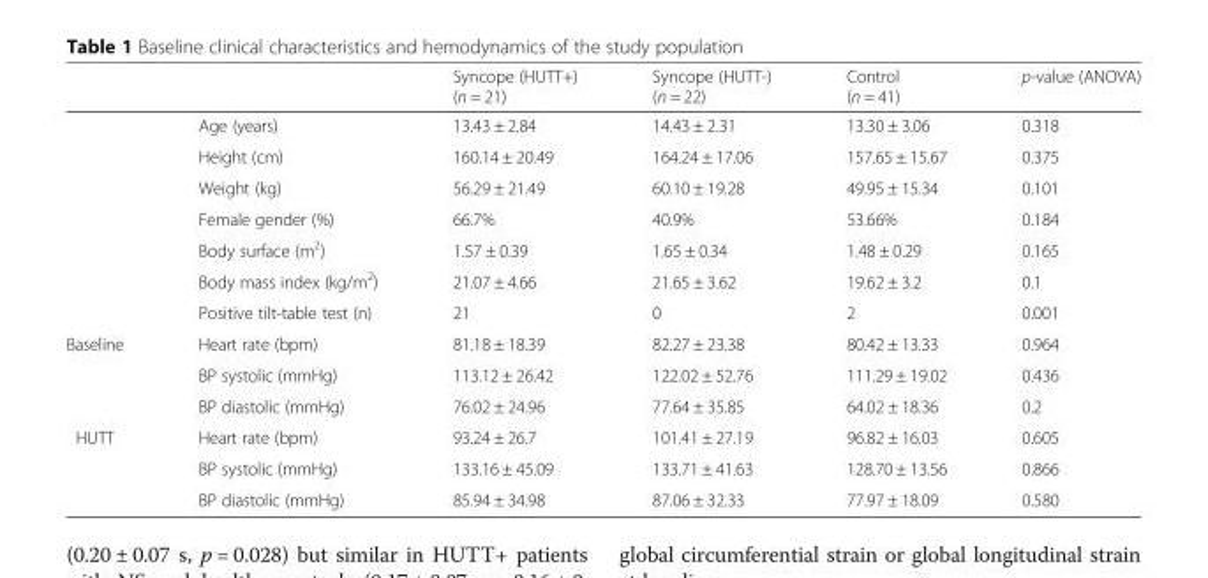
<table><thead><tr><td></td><td></td><td>Syncope (HUTT+) (n = 21)</td><td>Syncope (HUTT-) (n = 22)</td><td>Control (n = 41)</td><td>p-value (ANOVA)</td></tr></thead><tbody><tr><td rowspan="7"></td><td>Age (years)</td><td>13.43 ± 2.84</td><td>14.43 ± 2.31</td><td>13.30 ± 3.06</td><td>0.318</td></tr><tr><td>Height (cm)</td><td>160.14 ± 20.49</td><td>164.24 ± 17.06</td><td>157.65 ± 15.67</td><td>0.375</td></tr><tr><td>Weight (kg)</td><td>56.29 ± 21.49</td><td>60.10 ± 19.28</td><td>49.95 ± 15.34</td><td>0.101</td></tr><tr><td>Female gender (%)</td><td>66.7%</td><td>40.9%</td><td>53.66%</td><td>0.184</td></tr><tr><td>Body surface (m<sup>2</sup>)</td><td>1.57 ± 0.39</td><td>1.65 ± 0.34</td><td>1.48 ± 0.29</td><td>0.165</td></tr><tr><td>Body mass index (kg/m<sup>2</sup>)</td><td>21.07 ± 4.66</td><td>21.65 ± 3.62</td><td>19.62 ± 3.2</td><td>0.1</td></tr><tr><td>Positive tilt-table test (n)</td><td>21</td><td>0</td><td>2</td><td>0.001</td></tr><tr><td rowspan="3">Baseline</td><td>Heart rate (bpm)</td><td>81.18 ± 18.39</td><td>82.27 ± 23.38</td><td>80.42 ± 13.33</td><td>0.964</td></tr><tr><td>BP systolic (mmHg)</td><td>113.12 ± 26.42</td><td>122.02 ± 52.76</td><td>111.29 ± 19.02</td><td>0.436</td></tr><tr><td>BP diastolic (mmHg)</td><td>76.02 ± 24.96</td><td>77.64 ± 35.85</td><td>64.02 ± 18.36</td><td>0.2</td></tr><tr><td rowspan="3">HUTT</td><td>Heart rate (bpm)</td><td>93.24 ± 26.7</td><td>101.41 ± 27.19</td><td>96.82 ± 16.03</td><td>0.605</td></tr><tr><td>BP systolic (mmHg)</td><td>133.16 ± 45.09</td><td>133.71 ± 41.63</td><td>128.70 ± 13.56</td><td>0.866</td></tr><tr><td>BP diastolic (mmHg)</td><td>85.94 ± 34.98</td><td>87.06 ± 32.33</td><td>77.97 ± 18.09</td><td>0.580</td></tr></tbody></table>